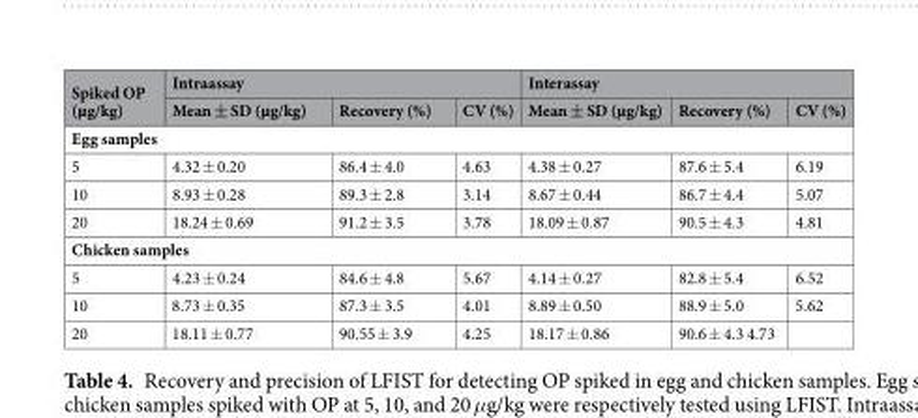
<table><thead><tr><td rowspan="2">Spiked OP (µg/kg)</td><td colspan="3">Intraassay</td><td colspan="3">Interassay</td></tr><tr><td>Mean ± SD (µg/kg)</td><td>Recovery (%)</td><td>CV (%)</td><td>Mean ± SD (µg/kg)</td><td>Recovery (%)</td><td>CV (%)</td></tr></thead><tbody><tr><td colspan="7">Egg samples</td></tr><tr><td>5</td><td>4.32 ± 0.20</td><td>86.4 ± 4.0</td><td>4.63</td><td>4.38 ± 0.27</td><td>87.6 ± 5.4</td><td>6.19</td></tr><tr><td>10</td><td>8.93 ± 0.28</td><td>89.3 ± 2.8</td><td>3.14</td><td>8.67 ± 0.44</td><td>86.7 ± 4.4</td><td>5.07</td></tr><tr><td>20</td><td>18.24 ± 0.69</td><td>91.2 ± 3.5</td><td>3.78</td><td>18.09 ± 0.87</td><td>90.5 ± 4.3</td><td>4.81</td></tr><tr><td colspan="7">Chicken samples</td></tr><tr><td>5</td><td>4.23 ± 0.24</td><td>84.6 ± 4.8</td><td>5.67</td><td>4.14 ± 0.27</td><td>82.8 ± 5.4</td><td>6.52</td></tr><tr><td>10</td><td>8.73 ± 0.35</td><td>87.3 ± 3.5</td><td>4.01</td><td>8.89 ± 0.50</td><td>88.9 ± 5.0</td><td>5.62</td></tr><tr><td>20</td><td>18.11 ± 0.77</td><td>90.55 ± 3.9</td><td>4.25</td><td>18.17 ± 0.86</td><td>90.6 ± 4.3 4.73</td><td></td></tr></tbody></table>